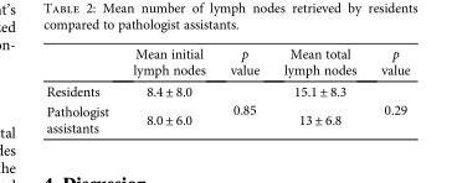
<table><thead><tr><td></td><td>Mean initial lymph nodes</td><td>p value</td><td>Mean total lymph nodes</td><td>p value</td></tr></thead><tbody><tr><td>Residents</td><td>8.4 ± 8.0</td><td rowspan="2">0.85</td><td>15.1 ± 8.3</td><td rowspan="2">0.29</td></tr><tr><td>Pathologist assistants</td><td>8.0 ± 6.0</td><td>13 ± 6.8</td></tr></tbody></table>